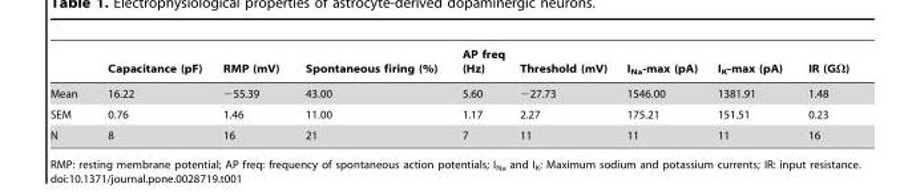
<table><thead><tr><td></td><td>Capacitance (pF)</td><td>RMP (mV)</td><td>Spontaneous firing (%)</td><td>AP freq (Hz)</td><td>Threshold (mV)</td><td>I<sub>Na</sub>-max (pA)</td><td>I<sub>K</sub>-max (pA)</td><td>IR (GΩ)</td></tr></thead><tbody><tr><td>Mean</td><td>16.22</td><td>−55.39</td><td>43.00</td><td>5.60</td><td>−27.73</td><td>1546.00</td><td>1381.91</td><td>1.48</td></tr><tr><td>SEM</td><td>0.76</td><td>1.46</td><td>11.00</td><td>1.17</td><td>2.27</td><td>175.21</td><td>151.51</td><td>0.23</td></tr><tr><td>N</td><td>8</td><td>16</td><td>21</td><td>7</td><td>11</td><td>11</td><td>11</td><td>16</td></tr></tbody></table>